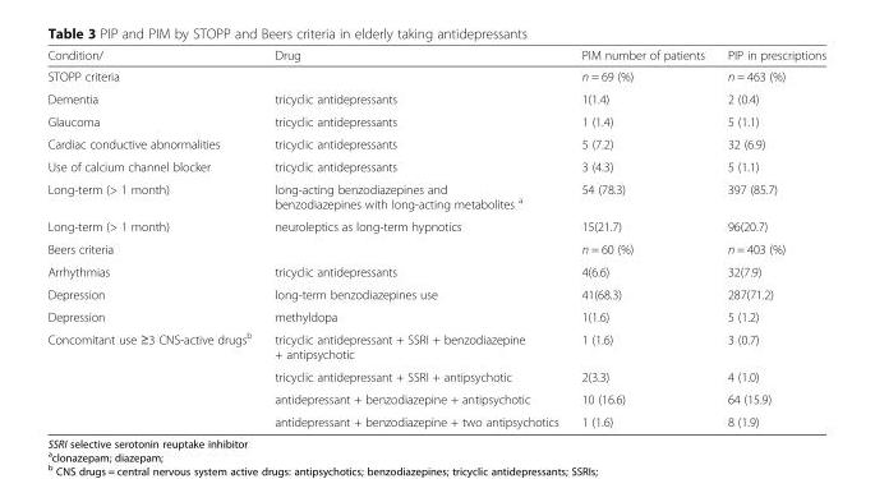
<table><thead><tr><td>Condition/</td><td>Drug</td><td>PIM number of patients</td><td>PIP in prescriptions</td></tr></thead><tbody><tr><td colspan="2">STOPP criteria</td><td>n = 69 (%)</td><td>n = 463 (%)</td></tr><tr><td>Dementia</td><td>tricyclic antidepressants</td><td>1(1.4)</td><td>2 (0.4)</td></tr><tr><td>Glaucoma</td><td>tricyclic antidepressants</td><td>1 (1.4)</td><td>5 (1.1)</td></tr><tr><td>Cardiac conductive abnormalities</td><td>tricyclic antidepressants</td><td>5 (7.2)</td><td>32 (6.9)</td></tr><tr><td>Use of calcium channel blocker</td><td>tricyclic antidepressants</td><td>3 (4.3)</td><td>5 (1.1)</td></tr><tr><td>Long-term (&gt; 1 month)</td><td>long-acting benzodiazepines and benzodiazepines with long-acting metabolites <sup>a</sup></td><td>54 (78.3)</td><td>397 (85.7)</td></tr><tr><td>Long-term (&gt; 1 month)</td><td>neuroleptics as long-term hypnotics</td><td>15(21.7)</td><td>96(20.7)</td></tr><tr><td colspan="2">Beers criteria</td><td>n = 60 (%)</td><td>n = 403 (%)</td></tr><tr><td>Arrhythmias</td><td>tricyclic antidepressants</td><td>4(6.6)</td><td>32(7.9)</td></tr><tr><td>Depression</td><td>long-term benzodiazepines use</td><td>41(68.3)</td><td>287(71.2)</td></tr><tr><td>Depression</td><td>methyldopa</td><td>1(1.6)</td><td>5 (1.2)</td></tr><tr><td rowspan="4">Concomitant use ≥3 CNS-active drugs<sup>b</sup></td><td>tricyclic antidepressant + SSRI + benzodiazepine + antipsychotic</td><td>1 (1.6)</td><td>3 (0.7)</td></tr><tr><td>tricyclic antidepressant + SSRI + antipsychotic</td><td>2(3.3)</td><td>4 (1.0)</td></tr><tr><td>antidepressant + benzodiazepine + antipsychotic</td><td>10 (16.6)</td><td>64 (15.9)</td></tr><tr><td>antidepressant + benzodiazepine + two antipsychotics</td><td>1 (1.6)</td><td>8 (1.9)</td></tr></tbody></table>